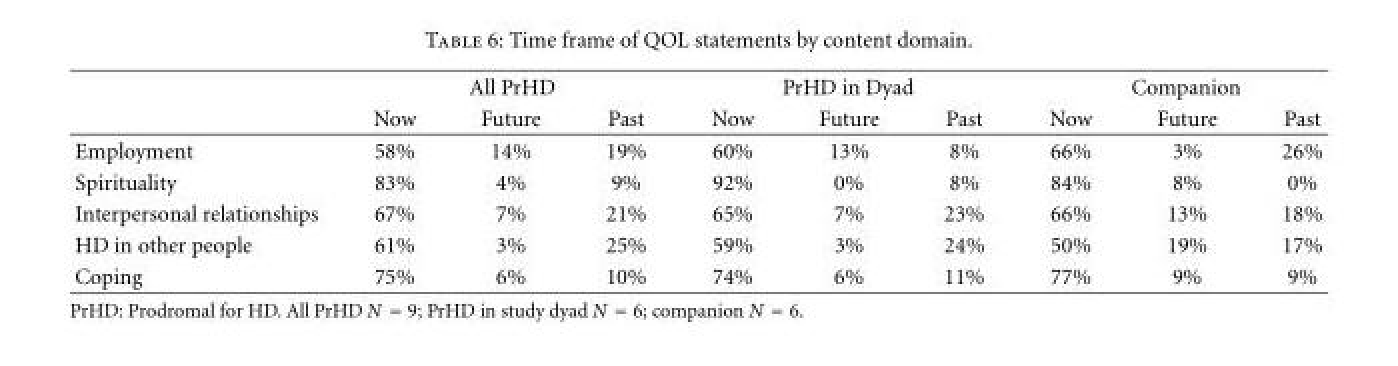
<table><thead><tr><td rowspan="2"></td><td colspan="3">All PrHD</td><td colspan="3">PrHD in Dyad</td><td colspan="3">Companion</td></tr><tr><td>Now</td><td>Future</td><td>Past</td><td>Now</td><td>Future</td><td>Past</td><td>Now</td><td>Future</td><td>Past</td></tr></thead><tbody><tr><td>Employment</td><td>58%</td><td>14%</td><td>19%</td><td>60%</td><td>13%</td><td>8%</td><td>66%</td><td>3%</td><td>26%</td></tr><tr><td>Spirituality</td><td>83%</td><td>4%</td><td>9%</td><td>92%</td><td>0%</td><td>8%</td><td>84%</td><td>8%</td><td>0%</td></tr><tr><td>Interpersonal relationships</td><td>67%</td><td>7%</td><td>21%</td><td>65%</td><td>7%</td><td>23%</td><td>66%</td><td>13%</td><td>18%</td></tr><tr><td>HD in other people</td><td>61%</td><td>3%</td><td>25%</td><td>59%</td><td>3%</td><td>24%</td><td>50%</td><td>19%</td><td>17%</td></tr><tr><td>Coping</td><td>75%</td><td>6%</td><td>10%</td><td>74%</td><td>6%</td><td>11%</td><td>77%</td><td>9%</td><td>9%</td></tr></tbody></table>